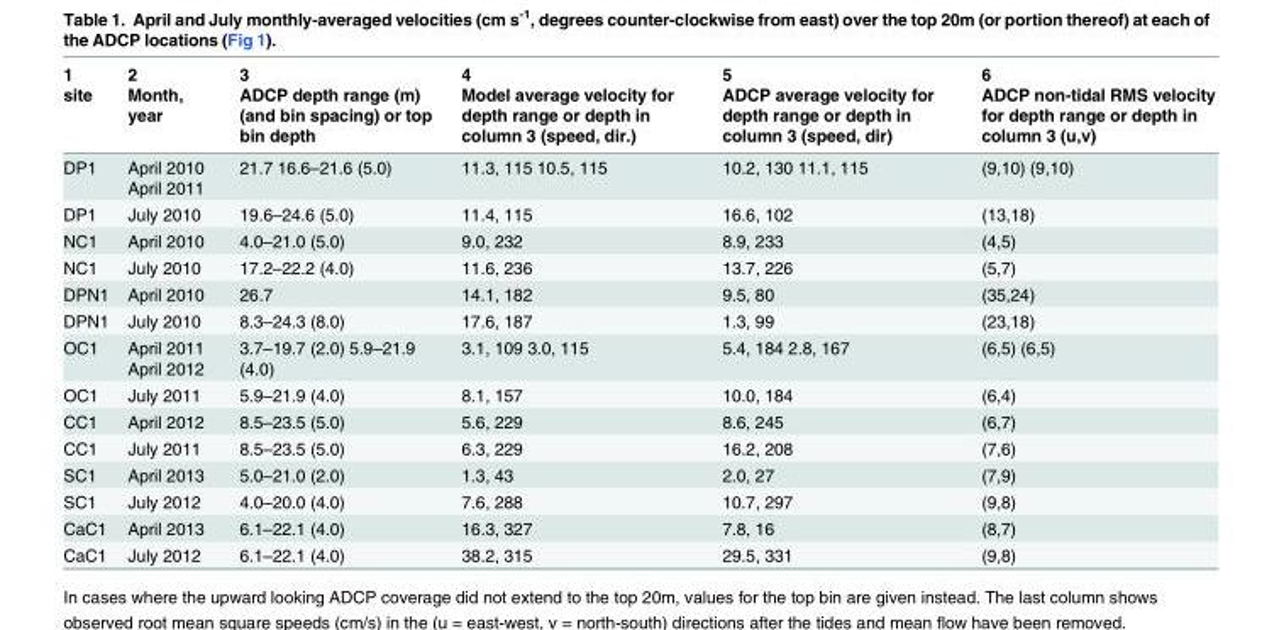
<table><thead><tr><td rowspan="2">1 site</td><td rowspan="2">2 Month, year</td><td rowspan="2">3 ADCP depth range (m) (and bin spacing) or top bin depth</td><td rowspan="2">4 Model average velocity for depth range or depth in column 3 (speed, dir.)</td><td rowspan="2">5 ADCP average velocity for depth range or depth in column 3 (speed, dir)</td><td rowspan="2">6 ADCP non-tidal RMS velocity for depth range or depth in column 3 (u,v)</td></tr><tr></tr></thead><tbody><tr><td>DP1</td><td>April 2010 April 2011</td><td>21.7 16.6–21.6 (5.0)</td><td>11.3, 115 10.5, 115</td><td>10.2, 130 11.1, 115</td><td>(9,10) (9,10)</td></tr><tr><td>DP1</td><td>July 2010</td><td>19.6–24.6 (5.0)</td><td>11.4, 115</td><td>16.6, 102</td><td>(13,18)</td></tr><tr><td>NC1</td><td>April 2010</td><td>4.0–21.0 (5.0)</td><td>9.0, 232</td><td>8.9, 233</td><td>(4,5)</td></tr><tr><td>NC1</td><td>July 2010</td><td>17.2–22.2 (4.0)</td><td>11.6, 236</td><td>13.7, 226</td><td>(5,7)</td></tr><tr><td>DPN1</td><td>April 2010</td><td>26.7</td><td>14.1, 182</td><td>9.5, 80</td><td>(35,24)</td></tr><tr><td>DPN1</td><td>July 2010</td><td>8.3–24.3 (8.0)</td><td>17.6, 187</td><td>1.3, 99</td><td>(23,18)</td></tr><tr><td>OC1</td><td>April 2011 April 2012</td><td>3.7–19.7 (2.0) 5.9–21.9 (4.0)</td><td>3.1, 109 3.0, 115</td><td>5.4, 184 2.8, 167</td><td>(6,5) (6,5)</td></tr><tr><td>OC1</td><td>July 2011</td><td>5.9–21.9 (4.0)</td><td>8.1, 157</td><td>10.0, 184</td><td>(6,4)</td></tr><tr><td>CC1</td><td>April 2012</td><td>8.5–23.5 (5.0)</td><td>5.6, 229</td><td>8.6, 245</td><td>(6,7)</td></tr><tr><td>CC1</td><td>July 2011</td><td>8.5–23.5 (5.0)</td><td>6.3, 229</td><td>16.2, 208</td><td>(7,6)</td></tr><tr><td>SC1</td><td>April 2013</td><td>5.0–21.0 (2.0)</td><td>1.3, 43</td><td>2.0, 27</td><td>(7,9)</td></tr><tr><td>SC1</td><td>July 2012</td><td>4.0–20.0 (4.0)</td><td>7.6, 288</td><td>10.7, 297</td><td>(9,8)</td></tr><tr><td>CaC1</td><td>April 2013</td><td>6.1–22.1 (4.0)</td><td>16.3, 327</td><td>7.8, 16</td><td>(8,7)</td></tr><tr><td>CaC1</td><td>July 2012</td><td>6.1–22.1 (4.0)</td><td>38.2, 315</td><td>29.5, 331</td><td>(9,8)</td></tr></tbody></table>